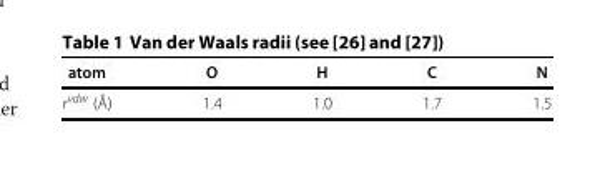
<table><thead><tr><td>atom</td><td>O</td><td>H</td><td>C</td><td>N</td></tr></thead><tbody><tr><td>r<sup>vdw</sup> (Å)</td><td>1.4</td><td>1.0</td><td>1.7</td><td>1.5</td></tr></tbody></table>